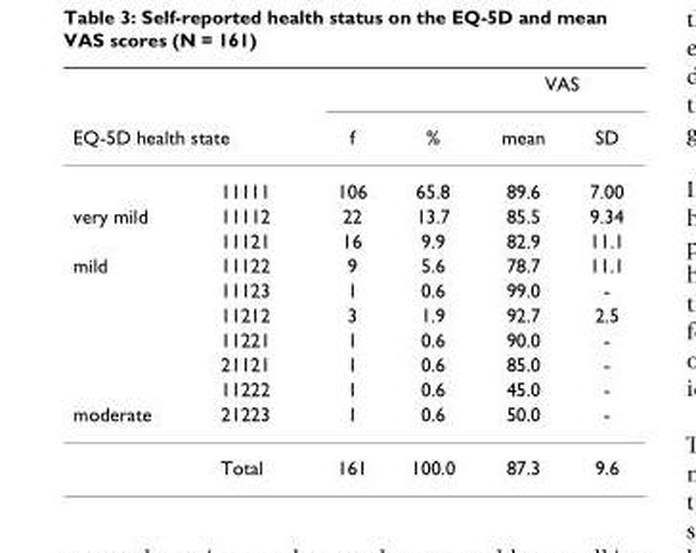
<table><thead><tr><td></td><td></td><td rowspan="2">f</td><td rowspan="2">%</td><td colspan="2">VAS</td></tr><tr><td colspan="2">EQ-5D health state</td><td>mean</td><td>SD</td></tr></thead><tbody><tr><td></td><td>11111</td><td>106</td><td>65.8</td><td>89.6</td><td>7.00</td></tr><tr><td rowspan="2">very mild</td><td>11112</td><td>22</td><td>13.7</td><td>85.5</td><td>9.34</td></tr><tr><td>11121</td><td>16</td><td>9.9</td><td>82.9</td><td>11.1</td></tr><tr><td rowspan="6">mild</td><td>11122</td><td>9</td><td>5.6</td><td>78.7</td><td>11.1</td></tr><tr><td>11123</td><td>1</td><td>0.6</td><td>99.0</td><td>-</td></tr><tr><td>11212</td><td>3</td><td>1.9</td><td>92.7</td><td>2.5</td></tr><tr><td>11221</td><td>1</td><td>0.6</td><td>90.0</td><td>-</td></tr><tr><td>21121</td><td>1</td><td>0.6</td><td>85.0</td><td>-</td></tr><tr><td>11222</td><td>1</td><td>0.6</td><td>45.0</td><td>-</td></tr><tr><td rowspan="2">moderate</td><td>21223</td><td>1</td><td>0.6</td><td>50.0</td><td>-</td></tr><tr><td>Total</td><td>161</td><td>100.0</td><td>87.3</td><td>9.6</td></tr></tbody></table>